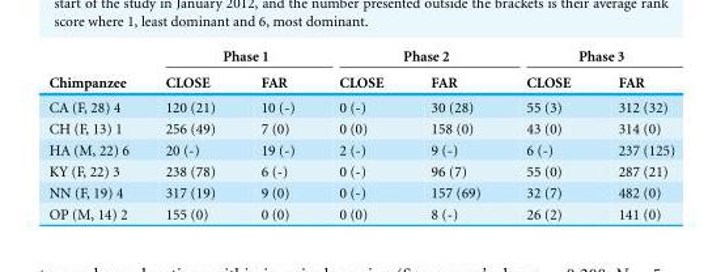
<table><thead><tr><td rowspan="2">Chimpanzee</td><td colspan="2">Phase 1</td><td colspan="2">Phase 2</td><td colspan="2">Phase 3</td></tr><tr><td>CLOSE</td><td>FAR</td><td>CLOSE</td><td>FAR</td><td>CLOSE</td><td>FAR</td></tr></thead><tbody><tr><td>CA (F, 28) 4</td><td>120 (21)</td><td>10 (-)</td><td>0 (-)</td><td>30 (28)</td><td>55 (3)</td><td>312 (32)</td></tr><tr><td>CH (F, 13) 1</td><td>256 (49)</td><td>7 (0)</td><td>0 (0)</td><td>158 (0)</td><td>43 (0)</td><td>314 (0)</td></tr><tr><td>HA (M, 22) 6</td><td>20 (-)</td><td>19 (-)</td><td>2 (-)</td><td>9 (-)</td><td>6 (-)</td><td>237 (125)</td></tr><tr><td>KY (F, 22) 3</td><td>238 (78)</td><td>6 (-)</td><td>0 (-)</td><td>96 (7)</td><td>55 (0)</td><td>287 (21)</td></tr><tr><td>NN (F, 19) 4</td><td>317 (19)</td><td>9 (0)</td><td>0 (-)</td><td>157 (69)</td><td>32 (7)</td><td>482 (0)</td></tr><tr><td>OP (M, 14) 2</td><td>155 (0)</td><td>0 (0)</td><td>0 (0)</td><td>8 (-)</td><td>26 (2)</td><td>141 (0)</td></tr></tbody></table>